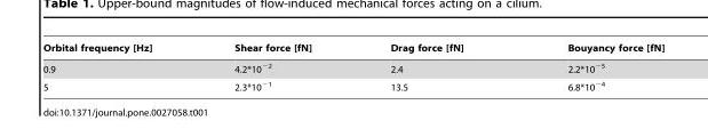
<table><thead><tr><td>Orbital frequency [Hz]</td><td>Shear force [fN]</td><td>Drag force [fN]</td><td>Bouyancy force [fN]</td></tr></thead><tbody><tr><td>0.9</td><td>4.2*10<sup>−2</sup></td><td>2.4</td><td>2.2*10<sup>−5</sup></td></tr><tr><td>5</td><td>2.3*10<sup>−1</sup></td><td>13.5</td><td>6.8*10<sup>−4</sup></td></tr></tbody></table>